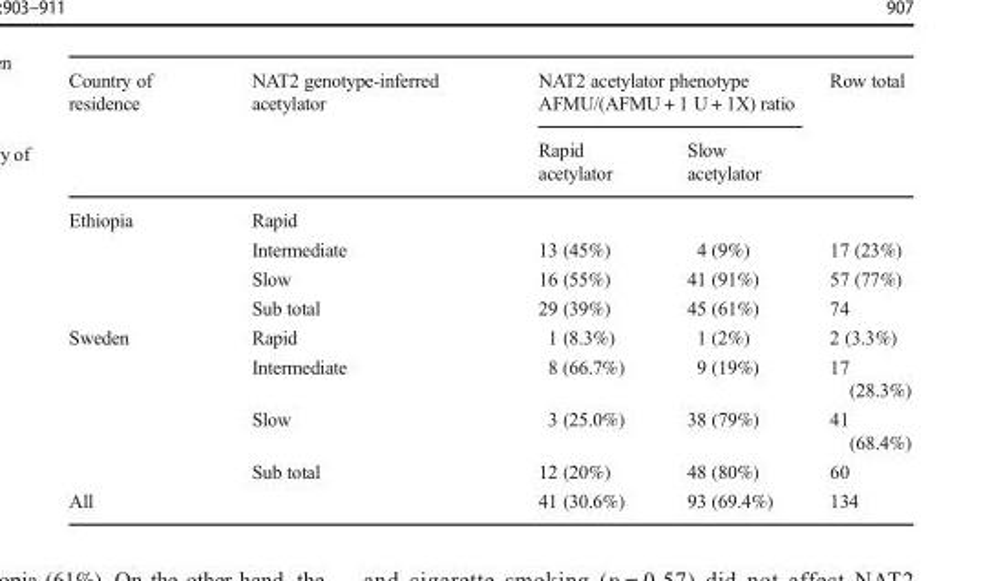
<table><thead><tr><td rowspan="2">Country of residence</td><td rowspan="2">NAT2 genotype-inferred acetylator</td><td colspan="2">NAT2 acetylator phenotype AFMU/(AFMU + 1 U + 1X) ratio</td><td rowspan="2">Row total</td></tr><tr><td>Rapid acetylator</td><td>Slow acetylator</td></tr></thead><tbody><tr><td rowspan="4">Ethiopia</td><td>Rapid</td><td></td><td></td><td></td></tr><tr><td>Intermediate</td><td>13 (45%)</td><td>4 (9%)</td><td>17 (23%)</td></tr><tr><td>Slow</td><td>16 (55%)</td><td>41 (91%)</td><td>57 (77%)</td></tr><tr><td>Sub total</td><td>29 (39%)</td><td>45 (61%)</td><td>74</td></tr><tr><td rowspan="4">Sweden</td><td>Rapid</td><td>1 (8.3%)</td><td>1 (2%)</td><td>2 (3.3%)</td></tr><tr><td>Intermediate</td><td>8 (66.7%)</td><td>9 (19%)</td><td>17 (28.3%)</td></tr><tr><td>Slow</td><td>3 (25.0%)</td><td>38 (79%)</td><td>41 (68.4%)</td></tr><tr><td>Sub total</td><td>12 (20%)</td><td>48 (80%)</td><td>60</td></tr><tr><td>All</td><td></td><td>41 (30.6%)</td><td>93 (69.4%)</td><td>134</td></tr></tbody></table>